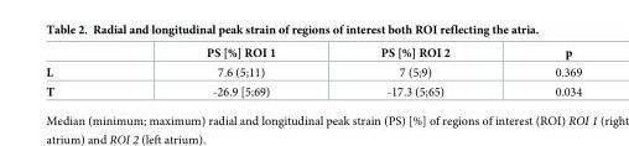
<table><thead><tr><td></td><td>PS [%] ROI 1</td><td>PS [%] ROI 2</td><td>p</td></tr></thead><tbody><tr><td>L</td><td>7.6 (5;11)</td><td>7 (5;9)</td><td>0.369</td></tr><tr><td>T</td><td>-26.9 [5;69)</td><td>-17.3 (5;65)</td><td>0.034</td></tr></tbody></table>